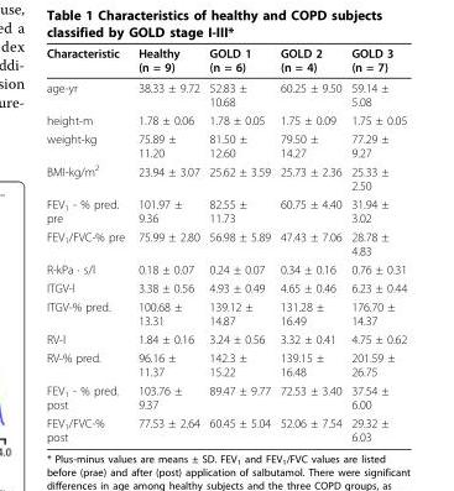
<table><thead><tr><td>Characteristic</td><td>Healthy (n = 9)</td><td>GOLD 1 (n = 6)</td><td>GOLD 2 (n = 4)</td><td>GOLD 3 (n = 7)</td></tr></thead><tbody><tr><td>age-yr</td><td>38.33 ± 9.72</td><td>52.83 ± 10.68</td><td>60.25 ± 9.50</td><td>59.14 ± 5.08</td></tr><tr><td>height-m</td><td>1.78 ± 0.06</td><td>1.78 ± 0.05</td><td>1.75 ± 0.09</td><td>1.75 ± 0.05</td></tr><tr><td>weight-kg</td><td>75.89 ± 11.20</td><td>81.50 ± 12.60</td><td>79.50 ± 14.27</td><td>77.29 ± 9.27</td></tr><tr><td>BMI-kg/m<sup>2</sup></td><td>23.94 ± 3.07</td><td>25.62 ± 3.59</td><td>25.73 ± 2.36</td><td>25.33 ± 2.50</td></tr><tr><td>FEV<sub>1</sub> - % pred. pre</td><td>101.97 ± 9.36</td><td>82.55 ± 11.73</td><td>60.75 ± 4.40</td><td>31.94 ± 3.02</td></tr><tr><td>FEV<sub>1</sub>/FVC-% pre</td><td>75.99 ± 2.80</td><td>56.98 ± 5.89</td><td>47.43 ± 7.06</td><td>28.78 ± 4.83</td></tr><tr><td>R-kPa · s/l</td><td>0.18 ± 0.07</td><td>0.24 ± 0.07</td><td>0.34 ± 0.16</td><td>0.76 ± 0.31</td></tr><tr><td>ITGV-l</td><td>3.38 ± 0.56</td><td>4.93 ± 0.49</td><td>4.65 ± 0.46</td><td>6.23 ± 0.44</td></tr><tr><td>ITGV-% pred.</td><td>100.68 ± 13.31</td><td>139.12 ± 14.87</td><td>131.28 ± 16.49</td><td>176.70 ± 14.37</td></tr><tr><td>RV-l</td><td>1.84 ± 0.16</td><td>3.24 ± 0.56</td><td>3.32 ± 0.41</td><td>4.75 ± 0.62</td></tr><tr><td>RV-% pred.</td><td>96.16 ± 11.37</td><td>142.3 ± 15.22</td><td>139.15 ± 16.48</td><td>201.59 ± 26.75</td></tr><tr><td>FEV<sub>1</sub> - % pred. post</td><td>103.76 ± 9.37</td><td>89.47 ± 9.77</td><td>72.53 ± 3.40</td><td>37.54 ± 6.00</td></tr><tr><td>FEV<sub>1</sub>/FVC-% post</td><td>77.53 ± 2.64</td><td>60.45 ± 5.04</td><td>52.06 ± 7.54</td><td>29.32 ± 6.03</td></tr></tbody></table>